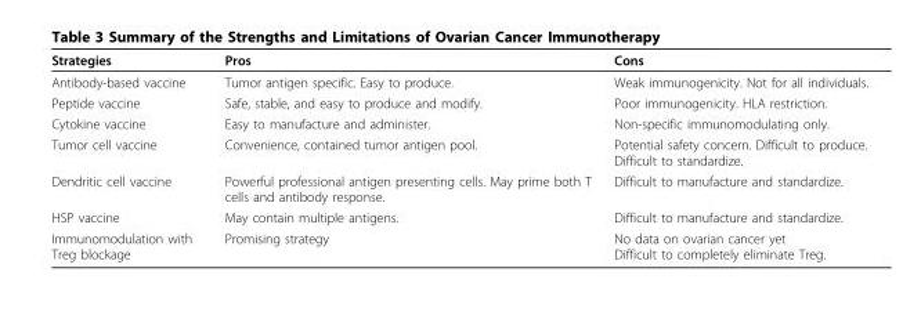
<table><thead><tr><td>Strategies</td><td>Pros</td><td>Cons</td></tr></thead><tbody><tr><td>Antibody-based vaccine</td><td>Tumor antigen specific. Easy to produce.</td><td>Weak immunogenicity. Not for all individuals.</td></tr><tr><td>Peptide vaccine</td><td>Safe, stable, and easy to produce and modify.</td><td>Poor immunogenicity. HLA restriction.</td></tr><tr><td>Cytokine vaccine</td><td>Easy to manufacture and administer.</td><td>Non-specific immunomodulating only.</td></tr><tr><td>Tumor cell vaccine</td><td>Convenience, contained tumor antigen pool.</td><td>Potential safety concern. Difficult to produce. Difficult to standardize.</td></tr><tr><td>Dendritic cell vaccine</td><td>Powerful professional antigen presenting cells. May prime both T cells and antibody response.</td><td>Difficult to manufacture and standardize.</td></tr><tr><td>HSP vaccine</td><td>May contain multiple antigens.</td><td>Difficult to manufacture and standardize.</td></tr><tr><td>Immunomodulation with Treg blockage</td><td>Promising strategy</td><td>No data on ovarian cancer yet Difficult to completely eliminate Treg.</td></tr></tbody></table>